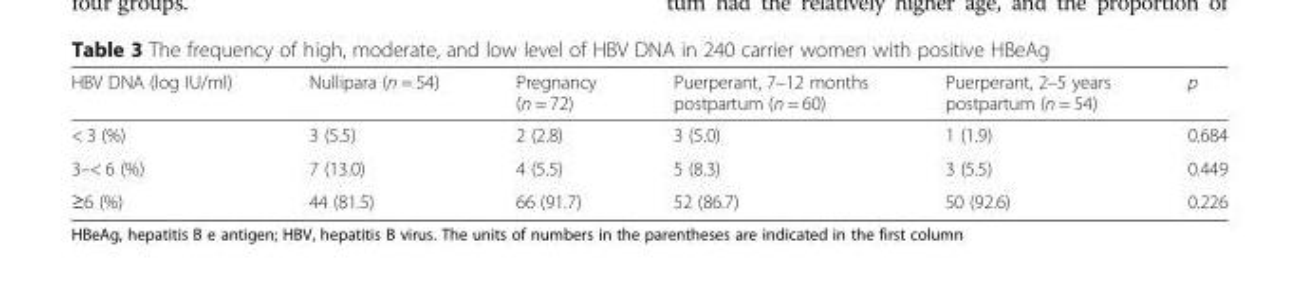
<table><thead><tr><td>HBV DNA (log IU/ml)</td><td>Nullipara (n = 54)</td><td>Pregnancy (n = 72)</td><td>Puerperant, 7–12 months postpartum (n = 60)</td><td>Puerperant, 2–5 years postpartum (n = 54)</td><td>p</td></tr></thead><tbody><tr><td>&lt; 3 (%)</td><td>3 (5.5)</td><td>2 (2.8)</td><td>3 (5.0)</td><td>1 (1.9)</td><td>0.684</td></tr><tr><td>3–&lt; 6 (%)</td><td>7 (13.0)</td><td>4 (5.5)</td><td>5 (8.3)</td><td>3 (5.5)</td><td>0.449</td></tr><tr><td>≥6 (%)</td><td>44 (81.5)</td><td>66 (91.7)</td><td>52 (86.7)</td><td>50 (92.6)</td><td>0.226</td></tr></tbody></table>